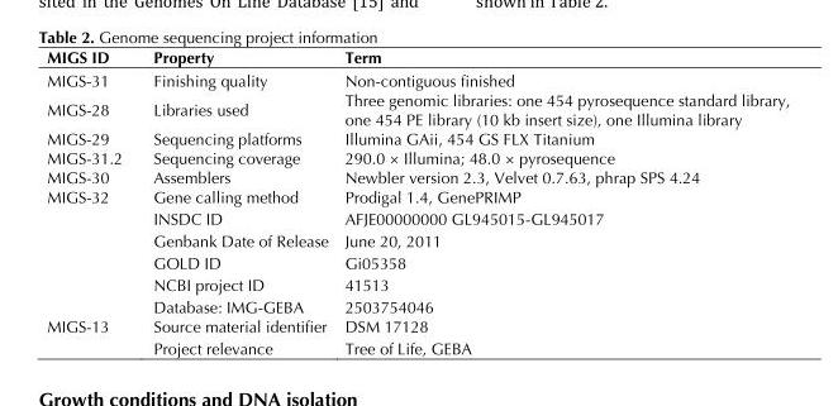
<table><thead><tr><td>MIGS ID</td><td>Property</td><td>Term</td></tr></thead><tbody><tr><td>MIGS-31</td><td>Finishing quality</td><td>Non-contiguous finished</td></tr><tr><td>MIGS-28</td><td>Libraries used</td><td>Three genomic libraries: one 454 pyrosequence standard library, one 454 PE library (10 kb insert size), one Illumina library</td></tr><tr><td>MIGS-29</td><td>Sequencing platforms</td><td>Illumina GAii, 454 GS FLX Titanium</td></tr><tr><td>MIGS-31.2</td><td>Sequencing coverage</td><td>290.0 × Illumina; 48.0 × pyrosequence</td></tr><tr><td>MIGS-30</td><td>Assemblers</td><td>Newbler version 2.3, Velvet 0.7.63, phrap SPS 4.24</td></tr><tr><td rowspan="6">MIGS-32</td><td>Gene calling method</td><td>Prodigal 1.4, GenePRIMP</td></tr><tr><td>INSDC ID</td><td>AFJE00000000 GL945015-GL945017</td></tr><tr><td>Genbank Date of Release</td><td>June 20, 2011</td></tr><tr><td>GOLD ID</td><td>Gi05358</td></tr><tr><td>NCBI project ID</td><td>41513</td></tr><tr><td>Database: IMG-GEBA</td><td>2503754046</td></tr><tr><td rowspan="2">MIGS-13</td><td>Source material identifier</td><td>DSM 17128</td></tr><tr><td>Project relevance</td><td>Tree of Life, GEBA</td></tr></tbody></table>